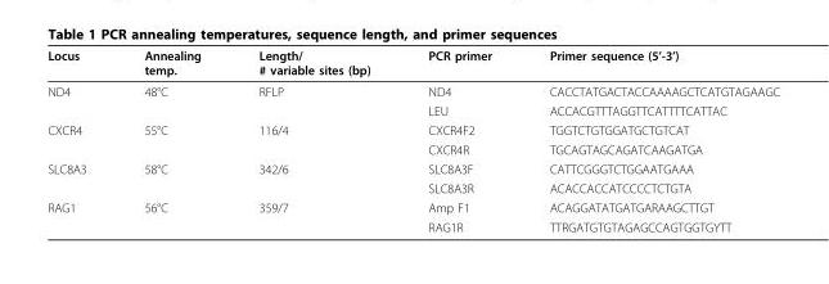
<table><thead><tr><td>Locus</td><td>Annealing temp.</td><td>Length/ # variable sites (bp)</td><td>PCR primer</td><td>Primer sequence (5’-3’)</td></tr></thead><tbody><tr><td rowspan="2">ND4</td><td>48°C</td><td>RFLP</td><td>ND4</td><td>CACCTATGACTACCAAAAGCTCATGTAGAAGC</td></tr><tr><td></td><td></td><td>LEU</td><td>ACCACGTTTAGGTTCATTTTCATTAC</td></tr><tr><td rowspan="2">CXCR4</td><td>55°C</td><td>116/4</td><td>CXCR4F2</td><td>TGGTCTGTGGATGCTGTCAT</td></tr><tr><td></td><td></td><td>CXCR4R</td><td>TGCAGTAGCAGATCAAGATGA</td></tr><tr><td rowspan="2">SLC8A3</td><td>58°C</td><td>342/6</td><td>SLC8A3F</td><td>CATTCGGGTCTGGAATGAAA</td></tr><tr><td></td><td></td><td>SLC8A3R</td><td>ACACCACCATCCCCTCTGTA</td></tr><tr><td rowspan="2">RAG1</td><td>56°C</td><td>359/7</td><td>Amp F1</td><td>ACAGGATATGATGARAAGCTTGT</td></tr><tr><td></td><td></td><td>RAG1R</td><td>TTRGATGTGTAGAGCCAGTGGTGYTT</td></tr></tbody></table>